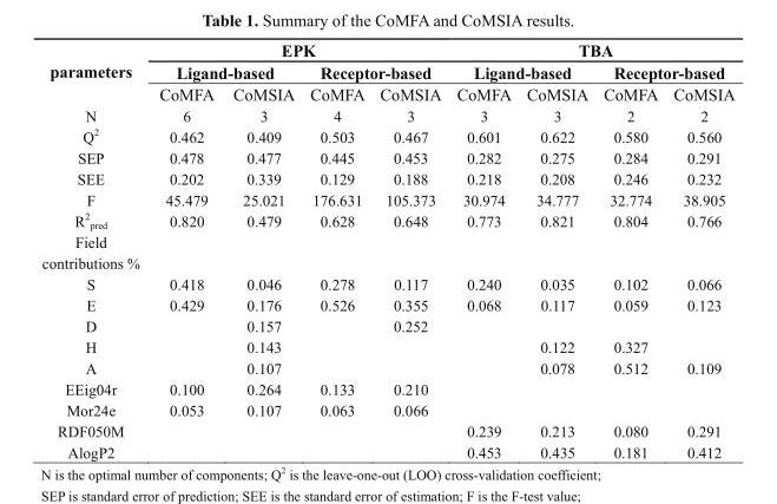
<table><thead><tr><td rowspan="3">parameters</td><td colspan="4">EPK</td><td colspan="4">TBA</td></tr><tr><td colspan="2">Ligand-based</td><td colspan="2">Receptor-based</td><td colspan="2">Ligand-based</td><td colspan="2">Receptor-based</td></tr><tr><td>CoMFA</td><td>CoMSIA</td><td>CoMFA</td><td>CoMSIA</td><td>CoMFA</td><td>CoMSIA</td><td>CoMFA</td><td>CoMSIA</td></tr></thead><tbody><tr><td>N</td><td>6</td><td>3</td><td>4</td><td>3</td><td>3</td><td>3</td><td>2</td><td>2</td></tr><tr><td>Q<sup>2</sup></td><td>0.462</td><td>0.409</td><td>0.503</td><td>0.467</td><td>0.601</td><td>0.622</td><td>0.580</td><td>0.560</td></tr><tr><td>SEP</td><td>0.478</td><td>0.477</td><td>0.445</td><td>0.453</td><td>0.282</td><td>0.275</td><td>0.284</td><td>0.291</td></tr><tr><td>SEE</td><td>0.202</td><td>0.339</td><td>0.129</td><td>0.188</td><td>0.218</td><td>0.208</td><td>0.246</td><td>0.232</td></tr><tr><td>F</td><td>45.479</td><td>25.021</td><td>176.631</td><td>105.373</td><td>30.974</td><td>34.777</td><td>32.774</td><td>38.905</td></tr><tr><td>R<sup>2</sup> <sub>pred</sub></td><td>0.820</td><td>0.479</td><td>0.628</td><td>0.648</td><td>0.773</td><td>0.821</td><td>0.804</td><td>0.766</td></tr><tr><td colspan="9">Field contributions %</td></tr><tr><td>S</td><td>0.418</td><td>0.046</td><td>0.278</td><td>0.117</td><td>0.240</td><td>0.035</td><td>0.102</td><td>0.066</td></tr><tr><td>E</td><td>0.429</td><td>0.176</td><td>0.526</td><td>0.355</td><td>0.068</td><td>0.117</td><td>0.059</td><td>0.123</td></tr><tr><td>D</td><td></td><td>0.157</td><td></td><td>0.252</td><td></td><td></td><td></td><td></td></tr><tr><td>H</td><td></td><td>0.143</td><td></td><td></td><td></td><td>0.122</td><td>0.327</td><td></td></tr><tr><td>A</td><td></td><td>0.107</td><td></td><td></td><td></td><td>0.078</td><td>0.512</td><td>0.109</td></tr><tr><td>EEig04r</td><td>0.100</td><td>0.264</td><td>0.133</td><td>0.210</td><td></td><td></td><td></td><td></td></tr><tr><td>Mor24e</td><td>0.053</td><td>0.107</td><td>0.063</td><td>0.066</td><td></td><td></td><td></td><td></td></tr><tr><td>RDF050M</td><td></td><td></td><td></td><td></td><td>0.239</td><td>0.213</td><td>0.080</td><td>0.291</td></tr><tr><td>AlogP2</td><td></td><td></td><td></td><td></td><td>0.453</td><td>0.435</td><td>0.181</td><td>0.412</td></tr></tbody></table>